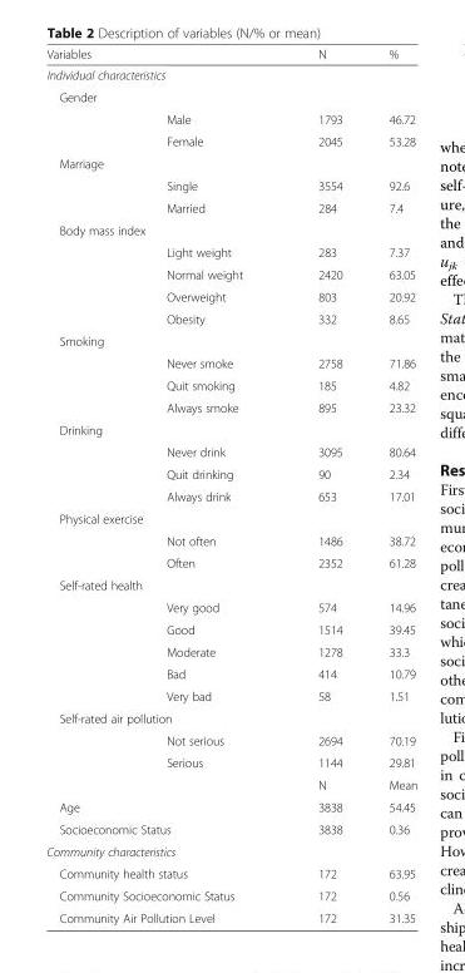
<table><thead><tr><td>Variables</td><td></td><td>N</td><td>%</td></tr></thead><tbody><tr><td colspan="4">Individual characteristics</td></tr><tr><td colspan="4">Gender</td></tr><tr><td></td><td>Male</td><td>1793</td><td>46.72</td></tr><tr><td></td><td>Female</td><td>2045</td><td>53.28</td></tr><tr><td colspan="4">Marriage</td></tr><tr><td></td><td>Single</td><td>3554</td><td>92.6</td></tr><tr><td></td><td>Married</td><td>284</td><td>7.4</td></tr><tr><td colspan="4">Body mass index</td></tr><tr><td></td><td>Light weight</td><td>283</td><td>7.37</td></tr><tr><td></td><td>Normal weight</td><td>2420</td><td>63.05</td></tr><tr><td></td><td>Overweight</td><td>803</td><td>20.92</td></tr><tr><td></td><td>Obesity</td><td>332</td><td>8.65</td></tr><tr><td colspan="4">Smoking</td></tr><tr><td></td><td>Never smoke</td><td>2758</td><td>71.86</td></tr><tr><td></td><td>Quit smoking</td><td>185</td><td>4.82</td></tr><tr><td></td><td>Always smoke</td><td>895</td><td>23.32</td></tr><tr><td colspan="4">Drinking</td></tr><tr><td></td><td>Never drink</td><td>3095</td><td>80.64</td></tr><tr><td></td><td>Quit drinking</td><td>90</td><td>2.34</td></tr><tr><td></td><td>Always drink</td><td>653</td><td>17.01</td></tr><tr><td colspan="4">Physical exercise</td></tr><tr><td></td><td>Not often</td><td>1486</td><td>38.72</td></tr><tr><td></td><td>Often</td><td>2352</td><td>61.28</td></tr><tr><td colspan="4">Self-rated health</td></tr><tr><td></td><td>Very good</td><td>574</td><td>14.96</td></tr><tr><td></td><td>Good</td><td>1514</td><td>39.45</td></tr><tr><td></td><td>Moderate</td><td>1278</td><td>33.3</td></tr><tr><td></td><td>Bad</td><td>414</td><td>10.79</td></tr><tr><td></td><td>Very bad</td><td>58</td><td>1.51</td></tr><tr><td colspan="4">Self-rated air pollution</td></tr><tr><td></td><td>Not serious</td><td>2694</td><td>70.19</td></tr><tr><td></td><td>Serious</td><td>1144</td><td>29.81</td></tr><tr><td></td><td></td><td>N</td><td>Mean</td></tr><tr><td colspan="2">Age</td><td>3838</td><td>54.45</td></tr><tr><td colspan="2">Socioeconomic Status</td><td>3838</td><td>0.36</td></tr><tr><td colspan="4">Community characteristics</td></tr><tr><td colspan="2">Community health status</td><td>172</td><td>63.95</td></tr><tr><td colspan="2">Community Socioeconomic Status</td><td>172</td><td>0.56</td></tr><tr><td colspan="2">Community Air Pollution Level</td><td>172</td><td>31.35</td></tr></tbody></table>